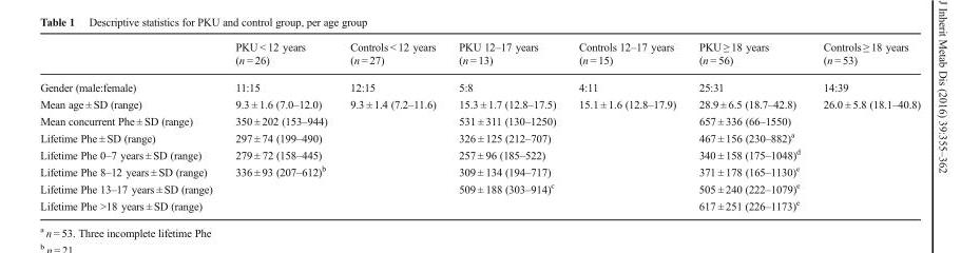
<table><thead><tr><td rowspan="2"></td><td rowspan="2">PKU &lt; 12 years (n = 26)</td><td rowspan="2">Controls &lt; 12 years (n = 27)</td><td rowspan="2">PKU 12–17 years (n = 13)</td><td rowspan="2">Controls 12–17 years (n = 15)</td><td rowspan="2">PKU ≥ 18 years (n = 56)</td><td rowspan="2">Controls ≥ 18 years (n = 53)</td></tr><tr></tr></thead><tbody><tr><td>Gender (male:female)</td><td>11:15</td><td>12:15</td><td>5:8</td><td>4:11</td><td>25:31</td><td>14:39</td></tr><tr><td>Mean age ± SD (range)</td><td>9.3 ± 1.6 (7.0–12.0)</td><td>9.3 ± 1.4 (7.2–11.6)</td><td>15.3 ± 1.7 (12.8–17.5)</td><td>15.1 ± 1.6 (12.8–17.9)</td><td>28.9 ± 6.5 (18.7–42.8)</td><td>26.0 ± 5.8 (18.1–40.8)</td></tr><tr><td>Mean concurrent Phe ± SD (range)</td><td>350 ± 202 (153–944)</td><td></td><td>531 ± 311 (130–1250)</td><td></td><td>657 ± 336 (66–1550)</td><td></td></tr><tr><td>Lifetime Phe ± SD (range)</td><td>297 ± 74 (199–490)</td><td></td><td>326 ± 125 (212–707)</td><td></td><td>467 ± 156 (230–882)<sup>a</sup></td><td></td></tr><tr><td>Lifetime Phe 0–7 years ± SD (range)</td><td>279 ± 72 (158–445)</td><td></td><td>257 ± 96 (185–522)</td><td></td><td>340 ± 158 (175–1048)<sup>d</sup></td><td></td></tr><tr><td>Lifetime Phe 8–12 years ± SD (range)</td><td>336 ± 93 (207–612)<sup>b</sup></td><td></td><td>309 ± 134 (194–717)</td><td></td><td>371 ± 178 (165–1130)<sup>e</sup></td><td></td></tr><tr><td>Lifetime Phe 13–17 years ± SD (range)</td><td></td><td></td><td>509 ± 188 (303–914)<sup>c</sup></td><td></td><td>505 ± 240 (222–1079)<sup>e</sup></td><td></td></tr><tr><td>Lifetime Phe &gt;18 years ± SD (range)</td><td></td><td></td><td></td><td></td><td>617 ± 251 (226–1173)<sup>e</sup></td><td></td></tr></tbody></table>